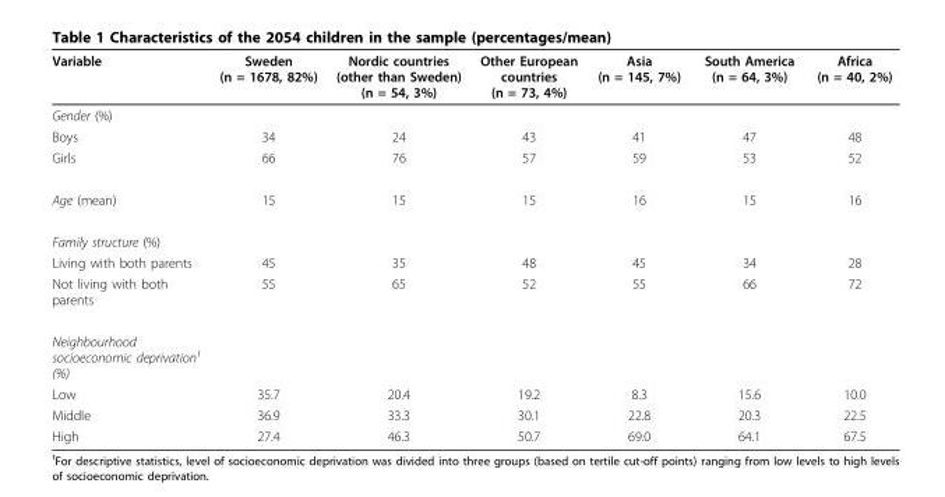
<table><thead><tr><td>Variable</td><td>Sweden (n = 1678, 82%)</td><td>Nordic countries (other than Sweden) (n = 54, 3%)</td><td>Other European countries (n = 73, 4%)</td><td>Asia (n = 145, 7%)</td><td>South America (n = 64, 3%)</td><td>Africa (n = 40, 2%)</td></tr></thead><tbody><tr><td colspan="7">Gender (%)</td></tr><tr><td>Boys</td><td>34</td><td>24</td><td>43</td><td>41</td><td>47</td><td>48</td></tr><tr><td>Girls</td><td>66</td><td>76</td><td>57</td><td>59</td><td>53</td><td>52</td></tr><tr><td>Age (mean)</td><td>15</td><td>15</td><td>15</td><td>16</td><td>15</td><td>16</td></tr><tr><td colspan="7">Family structure (%)</td></tr><tr><td>Living with both parents</td><td>45</td><td>35</td><td>48</td><td>45</td><td>34</td><td>28</td></tr><tr><td>Not living with both parents</td><td>55</td><td>65</td><td>52</td><td>55</td><td>66</td><td>72</td></tr><tr><td colspan="7">Neighbourhood socioeconomic deprivation¹ (%)</td></tr><tr><td>Low</td><td>35.7</td><td>20.4</td><td>19.2</td><td>8.3</td><td>15.6</td><td>10.0</td></tr><tr><td>Middle</td><td>36.9</td><td>33.3</td><td>30.1</td><td>22.8</td><td>20.3</td><td>22.5</td></tr><tr><td>High</td><td>27.4</td><td>46.3</td><td>50.7</td><td>69.0</td><td>64.1</td><td>67.5</td></tr></tbody></table>